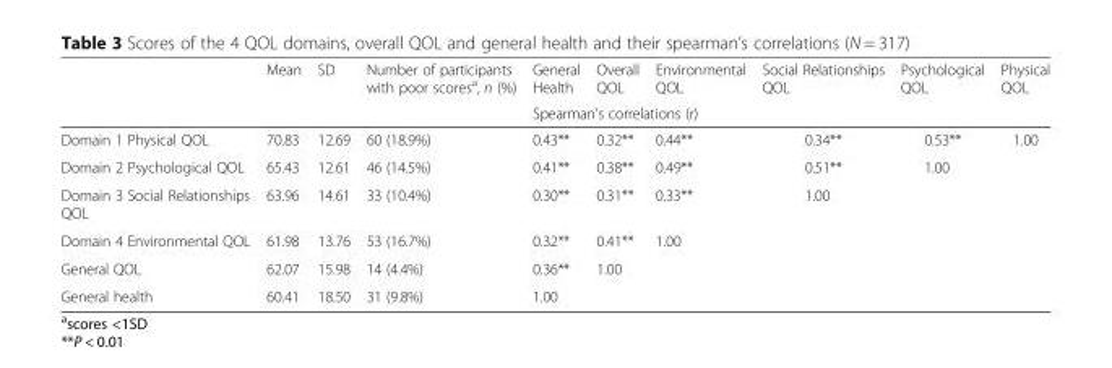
<table><thead><tr><td rowspan="2"></td><td rowspan="2">Mean</td><td rowspan="2">SD</td><td rowspan="2">Number of participants with poor scores<sup>a</sup>, n (%)</td><td>General Health</td><td>Overall QOL</td><td>Environmental QOL</td><td>Social Relationships QOL</td><td>Psychological QOL</td><td>Physical QOL</td></tr><tr><td colspan="6">Spearman’s correlations (r)</td></tr></thead><tbody><tr><td>Domain 1 Physical QOL</td><td>70.83</td><td>12.69</td><td>60 (18.9%)</td><td>0.43**</td><td>0.32**</td><td>0.44**</td><td>0.34**</td><td>0.53**</td><td>1.00</td></tr><tr><td>Domain 2 Psychological QOL</td><td>65.43</td><td>12.61</td><td>46 (14.5%)</td><td>0.41**</td><td>0.38**</td><td>0.49**</td><td>0.51**</td><td>1.00</td><td></td></tr><tr><td>Domain 3 Social Relationships QOL</td><td>63.96</td><td>14.61</td><td>33 (10.4%)</td><td>0.30**</td><td>0.31**</td><td>0.33**</td><td>1.00</td><td></td><td></td></tr><tr><td>Domain 4 Environmental QOL</td><td>61.98</td><td>13.76</td><td>53 (16.7%)</td><td>0.32**</td><td>0.41**</td><td>1.00</td><td></td><td></td><td></td></tr><tr><td>General QOL</td><td>62.07</td><td>15.98</td><td>14 (4.4%)</td><td>0.36**</td><td>1.00</td><td></td><td></td><td></td><td></td></tr><tr><td>General health</td><td>60.41</td><td>18.50</td><td>31 (9.8%)</td><td>1.00</td><td></td><td></td><td></td><td></td><td></td></tr></tbody></table>